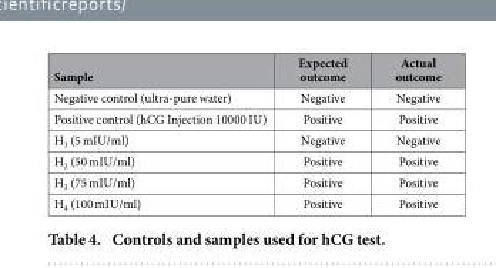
<table><thead><tr><td>Sample</td><td>Expected outcome</td><td>Actual outcome</td></tr></thead><tbody><tr><td>Negative control (ultra-pure water)</td><td>Negative</td><td>Negative</td></tr><tr><td>Positive control (hCG Injection 10000 IU)</td><td>Positive</td><td>Positive</td></tr><tr><td>H<sub>1</sub> (5 mIU/ml)</td><td>Negative</td><td>Negative</td></tr><tr><td>H<sub>2</sub> (50 mIU/ml)</td><td>Positive</td><td>Positive</td></tr><tr><td>H<sub>3</sub> (75 mIU/ml)</td><td>Positive</td><td>Positive</td></tr><tr><td>H<sub>4</sub> (100 mIU/ml)</td><td>Positive</td><td>Positive</td></tr></tbody></table>